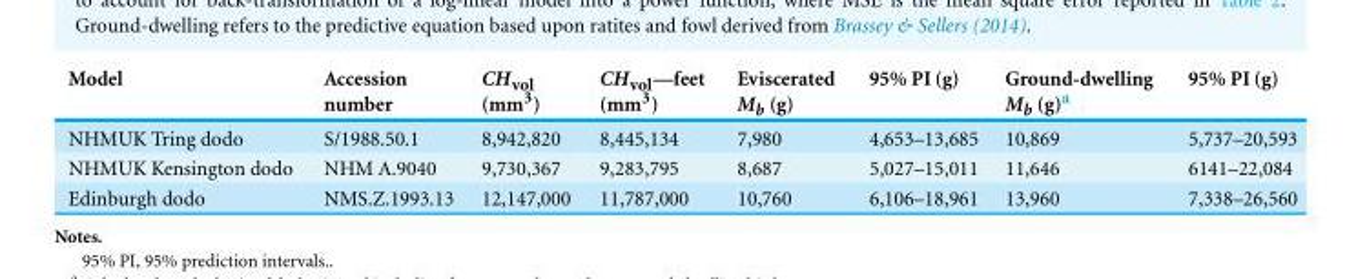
<table><thead><tr><td>Model</td><td>Accession number</td><td>CH<sub>vol</sub> (mm<sup>3</sup>)</td><td>CH<sub>vol</sub>—feet (mm<sup>3</sup>)</td><td>Eviscerated M<sub>b</sub> (g)</td><td>95% PI (g)</td><td>Ground-dwelling M<sub>b</sub> (g)<sup>a</sup></td><td>95% PI (g)</td></tr></thead><tbody><tr><td>NHMUK Tring dodo</td><td>S/1988.50.1</td><td>8,942,820</td><td>8,445,134</td><td>7,980</td><td>4,653–13,685</td><td>10,869</td><td>5,737–20,593</td></tr><tr><td>NHMUK Kensington dodo</td><td>NHM A.9040</td><td>9,730,367</td><td>9,283,795</td><td>8,687</td><td>5,027–15,011</td><td>11,646</td><td>6141–22,084</td></tr><tr><td>Edinburgh dodo</td><td>NMS.Z.1993.13</td><td>12,147,000</td><td>11,787,000</td><td>10,760</td><td>6,106–18,961</td><td>13,960</td><td>7,338–26,560</td></tr></tbody></table>